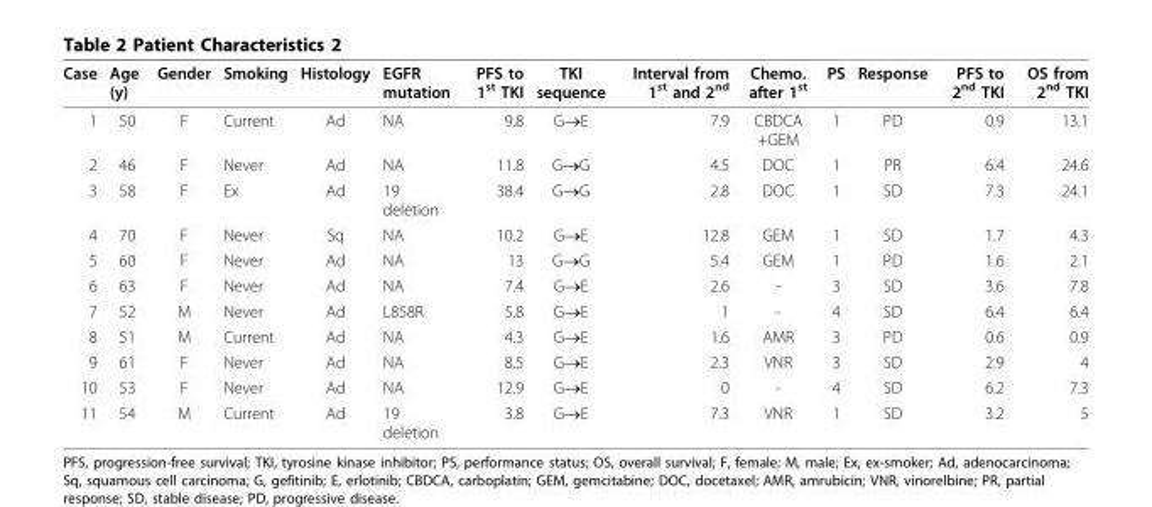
<table><thead><tr><td>Case</td><td>Age (y)</td><td>Gender</td><td>Smoking</td><td>Histology</td><td>EGFR mutation</td><td>PFS to 1<sup>st</sup> TKI</td><td>TKI sequence</td><td>Interval from 1<sup>st</sup> and 2<sup>nd</sup></td><td>Chemo. after 1<sup>st</sup></td><td>PS</td><td>Response</td><td>PFS to 2<sup>nd</sup> TKI</td><td>OS from 2<sup>nd</sup> TKI</td></tr></thead><tbody><tr><td>1</td><td>50</td><td>F</td><td>Current</td><td>Ad</td><td>NA</td><td>9.8</td><td>G→E</td><td>7.9</td><td>CBDCA +GEM</td><td>1</td><td>PD</td><td>0.9</td><td>13.1</td></tr><tr><td>2</td><td>46</td><td>F</td><td>Never</td><td>Ad</td><td>NA</td><td>11.8</td><td>G→G</td><td>4.5</td><td>DOC</td><td>1</td><td>PR</td><td>6.4</td><td>24.6</td></tr><tr><td>3</td><td>58</td><td>F</td><td>Ex</td><td>Ad</td><td>19 deletion</td><td>38.4</td><td>G→G</td><td>2.8</td><td>DOC</td><td>1</td><td>SD</td><td>7.3</td><td>24.1</td></tr><tr><td>4</td><td>70</td><td>F</td><td>Never</td><td>Sq</td><td>NA</td><td>10.2</td><td>G→E</td><td>12.8</td><td>GEM</td><td>1</td><td>SD</td><td>1.7</td><td>4.3</td></tr><tr><td>5</td><td>60</td><td>F</td><td>Never</td><td>Ad</td><td>NA</td><td>13</td><td>G→G</td><td>5.4</td><td>GEM</td><td>1</td><td>PD</td><td>1.6</td><td>2.1</td></tr><tr><td>6</td><td>63</td><td>F</td><td>Never</td><td>Ad</td><td>NA</td><td>7.4</td><td>G→E</td><td>2.6</td><td>-</td><td>3</td><td>SD</td><td>3.6</td><td>7.8</td></tr><tr><td>7</td><td>52</td><td>M</td><td>Never</td><td>Ad</td><td>L858R</td><td>5.8</td><td>G→E</td><td>1</td><td>-</td><td>4</td><td>SD</td><td>6.4</td><td>6.4</td></tr><tr><td>8</td><td>51</td><td>M</td><td>Current</td><td>Ad</td><td>NA</td><td>4.3</td><td>G→E</td><td>1.6</td><td>AMR</td><td>3</td><td>PD</td><td>0.6</td><td>0.9</td></tr><tr><td>9</td><td>61</td><td>F</td><td>Never</td><td>Ad</td><td>NA</td><td>8.5</td><td>G→E</td><td>2.3</td><td>VNR</td><td>3</td><td>SD</td><td>2.9</td><td>4</td></tr><tr><td>10</td><td>53</td><td>F</td><td>Never</td><td>Ad</td><td>NA</td><td>12.9</td><td>G→E</td><td>0</td><td>-</td><td>4</td><td>SD</td><td>6.2</td><td>7.3</td></tr><tr><td>11</td><td>54</td><td>M</td><td>Current</td><td>Ad</td><td>19 deletion</td><td>3.8</td><td>G→E</td><td>7.3</td><td>VNR</td><td>1</td><td>SD</td><td>3.2</td><td>5</td></tr></tbody></table>